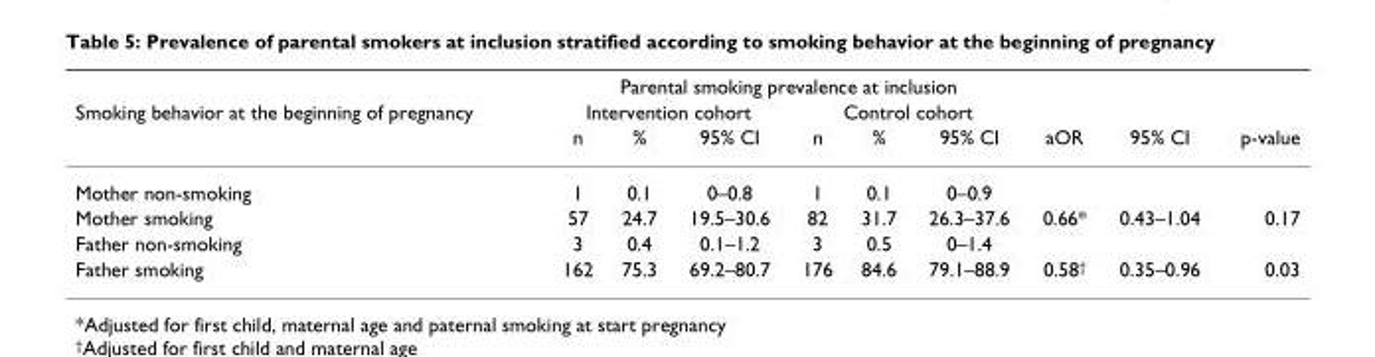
<table><thead><tr><td rowspan="3">Smoking behavior at the beginning of pregnancy</td><td colspan="6">Parental smoking prevalence at inclusion</td><td rowspan="3">aOR</td><td rowspan="3">95% CI</td><td rowspan="3">p-value</td></tr><tr><td colspan="3">Intervention cohort</td><td colspan="3">Control cohort</td></tr><tr><td>n</td><td>%</td><td>95% CI</td><td>n</td><td>%</td><td>95% CI</td></tr></thead><tbody><tr><td>Mother non-smoking</td><td>1</td><td>0.1</td><td>0–0.8</td><td>1</td><td>0.1</td><td>0–0.9</td><td></td><td></td><td></td></tr><tr><td>Mother smoking</td><td>57</td><td>24.7</td><td>19.5–30.6</td><td>82</td><td>31.7</td><td>26.3–37.6</td><td>0.66*</td><td>0.43–1.04</td><td>0.17</td></tr><tr><td>Father non-smoking</td><td>3</td><td>0.4</td><td>0.1–1.2</td><td>3</td><td>0.5</td><td>0–1.4</td><td></td><td></td><td></td></tr><tr><td>Father smoking</td><td>162</td><td>75.3</td><td>69.2–80.7</td><td>176</td><td>84.6</td><td>79.1–88.9</td><td>0.58<sup>†</sup></td><td>0.35–0.96</td><td>0.03</td></tr></tbody></table>